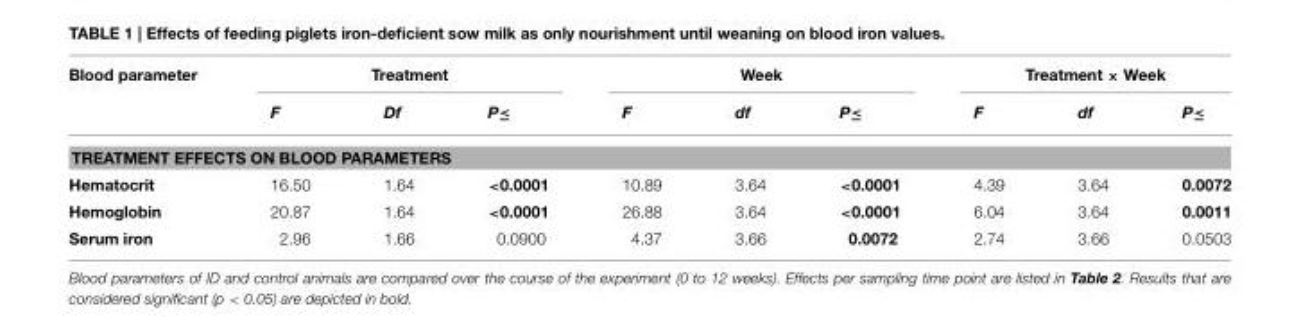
<table><thead><tr><td rowspan="2">Blood parameter</td><td colspan="3">Treatment</td><td colspan="3">Week</td><td colspan="3">Treatment × Week</td></tr><tr><td>F</td><td>Df</td><td>P≤</td><td>F</td><td>df</td><td>P≤</td><td>F</td><td>df</td><td>P≤</td></tr></thead><tbody><tr><td colspan="10">TREATMENT EFFECTS ON BLOOD PARAMETERS</td></tr><tr><td>Hematocrit</td><td>16.50</td><td>1.64</td><td>&lt;0.0001</td><td>10.89</td><td>3.64</td><td>&lt;0.0001</td><td>4.39</td><td>3.64</td><td>0.0072</td></tr><tr><td>Hemoglobin</td><td>20.87</td><td>1.64</td><td>&lt;0.0001</td><td>26.88</td><td>3.64</td><td>&lt;0.0001</td><td>6.04</td><td>3.64</td><td>0.0011</td></tr><tr><td>Serum iron</td><td>2.96</td><td>1.66</td><td>0.0900</td><td>4.37</td><td>3.66</td><td>0.0072</td><td>2.74</td><td>3.66</td><td>0.0503</td></tr></tbody></table>